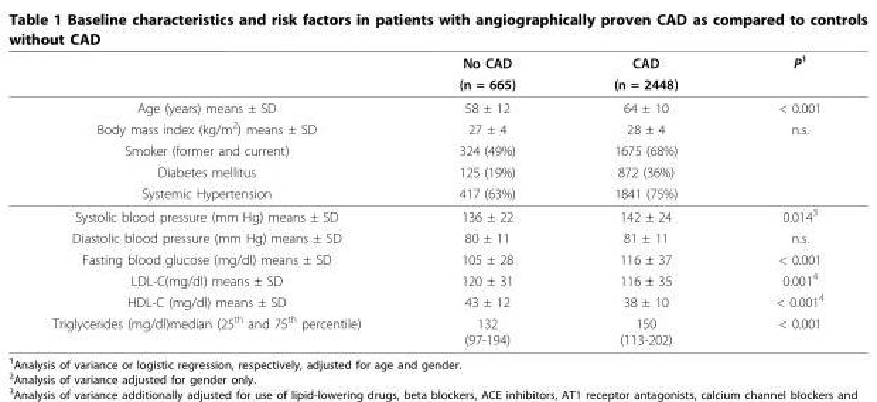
<table><thead><tr><td rowspan="2"></td><td rowspan="2">No CAD (n = 665)</td><td rowspan="2">CAD (n = 2448)</td><td rowspan="2">P<sup>1</sup></td></tr><tr></tr></thead><tbody><tr><td>Age (years) means ± SD</td><td>58 ± 12</td><td>64 ± 10</td><td>&lt; 0.001</td></tr><tr><td>Body mass index (kg/m<sup>2</sup>) means ± SD</td><td>27 ± 4</td><td>28 ± 4</td><td>n.s.</td></tr><tr><td>Smoker (former and current)</td><td>324 (49%)</td><td>1675 (68%)</td><td></td></tr><tr><td>Diabetes mellitus</td><td>125 (19%)</td><td>872 (36%)</td><td></td></tr><tr><td>Systemic Hypertension</td><td>417 (63%)</td><td>1841 (75%)</td><td></td></tr><tr><td>Systolic blood pressure (mm Hg) means ± SD</td><td>136 ± 22</td><td>142 ± 24</td><td>0.014<sup>3</sup></td></tr><tr><td>Diastolic blood pressure (mm Hg) means ± SD</td><td>80 ± 11</td><td>81 ± 11</td><td>n.s.</td></tr><tr><td>Fasting blood glucose (mg/dl) means ± SD</td><td>105 ± 28</td><td>116 ± 37</td><td>&lt; 0.001</td></tr><tr><td>LDL-C(mg/dl) means ± SD</td><td>120 ± 31</td><td>116 ± 35</td><td>0.001<sup>4</sup></td></tr><tr><td>HDL-C (mg/dl) means ± SD</td><td>43 ± 12</td><td>38 ± 10</td><td>&lt; 0.001<sup>4</sup></td></tr><tr><td>Triglycerides (mg/dl)median (25<sup>th</sup> and 75<sup>th</sup> percentile)</td><td>132 (97-194)</td><td>150 (113-202)</td><td>&lt; 0.001</td></tr></tbody></table>